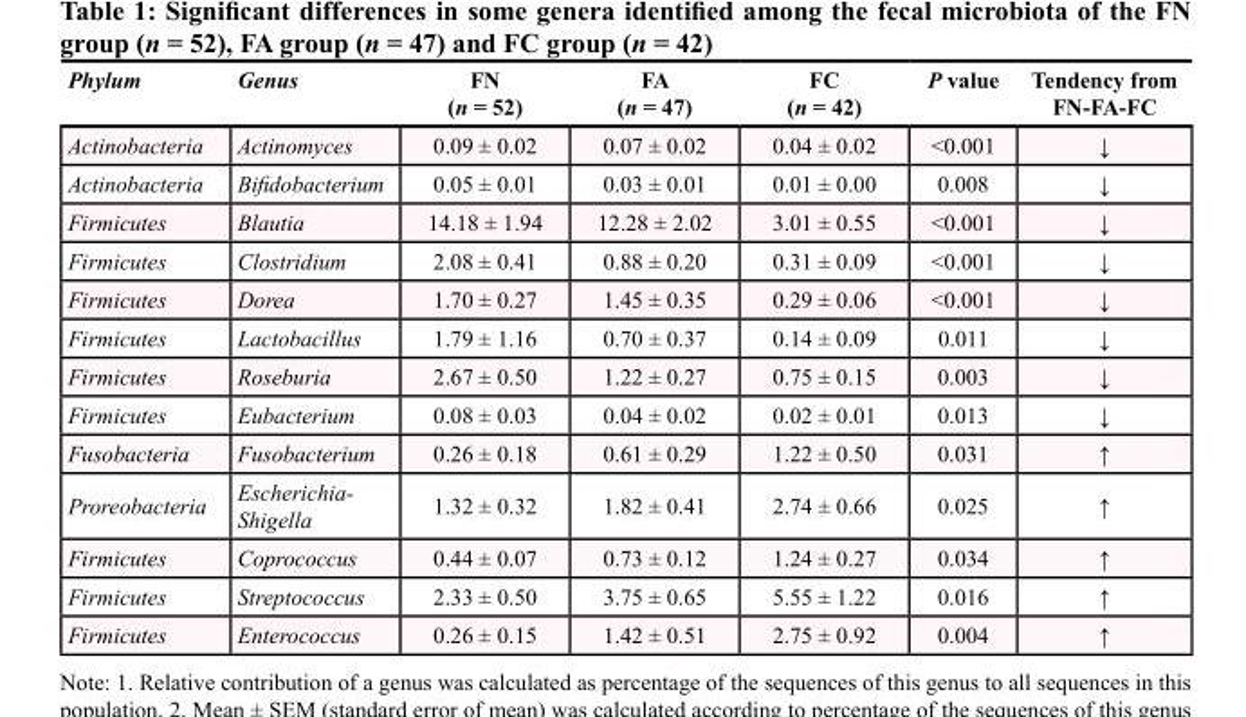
<table><thead><tr><td>Phylum</td><td>Genus</td><td>FN (n = 52)</td><td>FA (n = 47)</td><td>FC (n = 42)</td><td>P value</td><td>Tendency from FN-FA-FC</td></tr></thead><tbody><tr><td>Actinobacteria</td><td>Actinomyces</td><td>0.09 ± 0.02</td><td>0.07 ± 0.02</td><td>0.04 ± 0.02</td><td>&lt;0.001</td><td>↓</td></tr><tr><td>Actinobacteria</td><td>Bifidobacterium</td><td>0.05 ± 0.01</td><td>0.03 ± 0.01</td><td>0.01 ± 0.00</td><td>0.008</td><td>↓</td></tr><tr><td>Firmicutes</td><td>Blautia</td><td>14.18 ± 1.94</td><td>12.28 ± 2.02</td><td>3.01 ± 0.55</td><td>&lt;0.001</td><td>↓</td></tr><tr><td>Firmicutes</td><td>Clostridium</td><td>2.08 ± 0.41</td><td>0.88 ± 0.20</td><td>0.31 ± 0.09</td><td>&lt;0.001</td><td>↓</td></tr><tr><td>Firmicutes</td><td>Dorea</td><td>1.70 ± 0.27</td><td>1.45 ± 0.35</td><td>0.29 ± 0.06</td><td>&lt;0.001</td><td>↓</td></tr><tr><td>Firmicutes</td><td>Lactobacillus</td><td>1.79 ± 1.16</td><td>0.70 ± 0.37</td><td>0.14 ± 0.09</td><td>0.011</td><td>↓</td></tr><tr><td>Firmicutes</td><td>Roseburia</td><td>2.67 ± 0.50</td><td>1.22 ± 0.27</td><td>0.75 ± 0.15</td><td>0.003</td><td>↓</td></tr><tr><td>Firmicutes</td><td>Eubacterium</td><td>0.08 ± 0.03</td><td>0.04 ± 0.02</td><td>0.02 ± 0.01</td><td>0.013</td><td>↓</td></tr><tr><td>Fusobacteria</td><td>Fusobacterium</td><td>0.26 ± 0.18</td><td>0.61 ± 0.29</td><td>1.22 ± 0.50</td><td>0.031</td><td>↑</td></tr><tr><td>Proreobacteria</td><td>Escherichia- Shigella</td><td>1.32 ± 0.32</td><td>1.82 ± 0.41</td><td>2.74 ± 0.66</td><td>0.025</td><td>↑</td></tr><tr><td>Firmicutes</td><td>Coprococcus</td><td>0.44 ± 0.07</td><td>0.73 ± 0.12</td><td>1.24 ± 0.27</td><td>0.034</td><td>↑</td></tr><tr><td>Firmicutes</td><td>Streptococcus</td><td>2.33 ± 0.50</td><td>3.75 ± 0.65</td><td>5.55 ± 1.22</td><td>0.016</td><td>↑</td></tr><tr><td>Firmicutes</td><td>Enterococcus</td><td>0.26 ± 0.15</td><td>1.42 ± 0.51</td><td>2.75 ± 0.92</td><td>0.004</td><td>↑</td></tr></tbody></table>